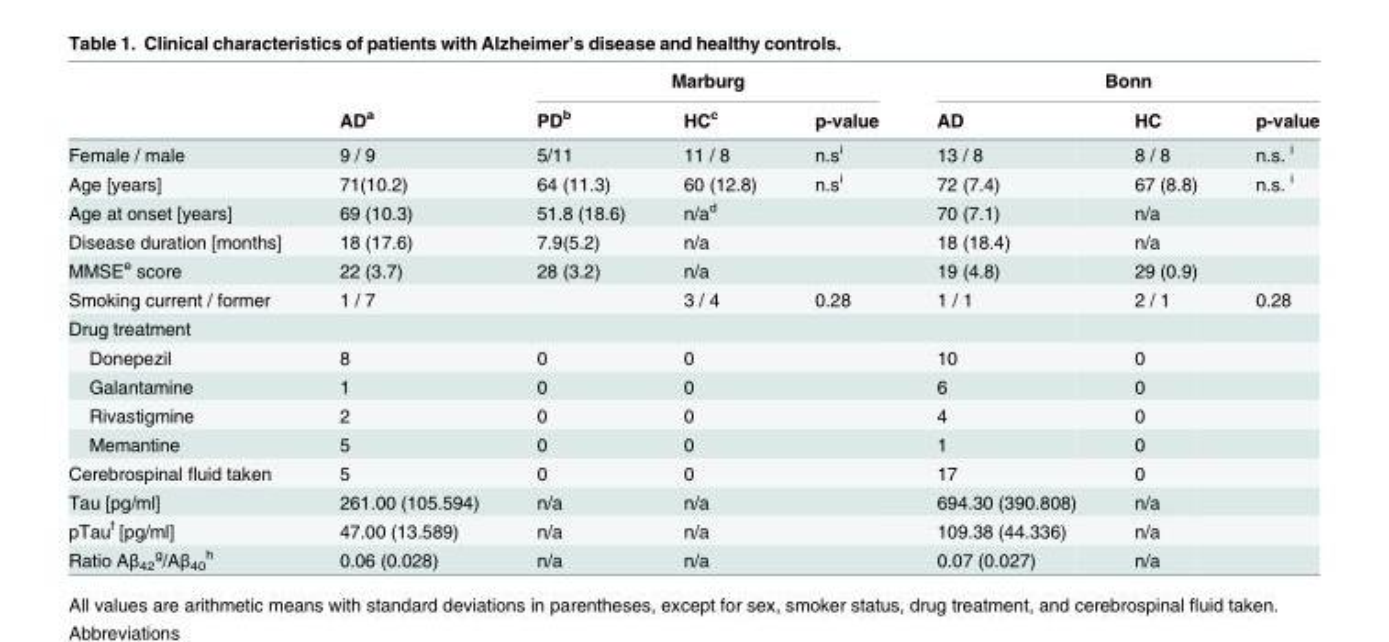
<table><thead><tr><td rowspan="2"></td><td rowspan="2">AD<sup>a</sup></td><td colspan="3">Marburg</td><td colspan="3">Bonn</td></tr><tr><td>PD<sup>b</sup></td><td>HC<sup>c</sup></td><td>p-value</td><td>AD</td><td>HC</td><td>p-value</td></tr></thead><tbody><tr><td>Female / male</td><td>9 / 9</td><td>5/11</td><td>11 / 8</td><td>n.s<sup>i</sup></td><td>13 / 8</td><td>8 / 8</td><td>n.s. <sup>i</sup></td></tr><tr><td>Age [years]</td><td>71(10.2)</td><td>64 (11.3)</td><td>60 (12.8)</td><td>n.s<sup>i</sup></td><td>72 (7.4)</td><td>67 (8.8)</td><td>n.s. <sup>i</sup></td></tr><tr><td>Age at onset [years]</td><td>69 (10.3)</td><td>51.8 (18.6)</td><td>n/a<sup>d</sup></td><td></td><td>70 (7.1)</td><td>n/a</td><td></td></tr><tr><td>Disease duration [months]</td><td>18 (17.6)</td><td>7.9(5.2)</td><td>n/a</td><td></td><td>18 (18.4)</td><td>n/a</td><td></td></tr><tr><td>MMSE<sup>e</sup> score</td><td>22 (3.7)</td><td>28 (3.2)</td><td>n/a</td><td></td><td>19 (4.8)</td><td>29 (0.9)</td><td></td></tr><tr><td>Smoking current / former</td><td>1 / 7</td><td></td><td>3 / 4</td><td>0.28</td><td>1 / 1</td><td>2 / 1</td><td>0.28</td></tr><tr><td colspan="8">Drug treatment</td></tr><tr><td>Donepezil</td><td>8</td><td>0</td><td>0</td><td></td><td>10</td><td>0</td><td></td></tr><tr><td>Galantamine</td><td>1</td><td>0</td><td>0</td><td></td><td>6</td><td>0</td><td></td></tr><tr><td>Rivastigmine</td><td>2</td><td>0</td><td>0</td><td></td><td>4</td><td>0</td><td></td></tr><tr><td>Memantine</td><td>5</td><td>0</td><td>0</td><td></td><td>1</td><td>0</td><td></td></tr><tr><td>Cerebrospinal fluid taken</td><td>5</td><td>0</td><td>0</td><td></td><td>17</td><td>0</td><td></td></tr><tr><td>Tau [pg/ml]</td><td>261.00 (105.594)</td><td>n/a</td><td>n/a</td><td></td><td>694.30 (390.808)</td><td>n/a</td><td></td></tr><tr><td>pTau<sup>f</sup> [pg/ml]</td><td>47.00 (13.589)</td><td>n/a</td><td>n/a</td><td></td><td>109.38 (44.336)</td><td>n/a</td><td></td></tr><tr><td>Ratio Aβ<sub>42</sub> <sup>g</sup>/Aβ<sub>40</sub> <sup>h</sup></td><td>0.06 (0.028)</td><td>n/a</td><td>n/a</td><td></td><td>0.07 (0.027)</td><td>n/a</td><td></td></tr></tbody></table>